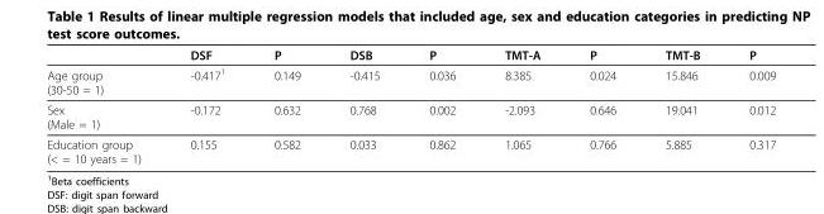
<table><thead><tr><td></td><td>DSF</td><td>P</td><td>DSB</td><td>P</td><td>TMT-A</td><td>P</td><td>TMT-B</td><td>P</td></tr></thead><tbody><tr><td>Age group (30-50 = 1)</td><td>-0.417<sup>1</sup></td><td>0.149</td><td>-0.415</td><td>0.036</td><td>8.385</td><td>0.024</td><td>15.846</td><td>0.009</td></tr><tr><td>Sex (Male = 1)</td><td>-0.172</td><td>0.632</td><td>0.768</td><td>0.002</td><td>-2.093</td><td>0.646</td><td>19.041</td><td>0.012</td></tr><tr><td>Education group (&lt; = 10 years = 1)</td><td>0.155</td><td>0.582</td><td>0.033</td><td>0.862</td><td>1.065</td><td>0.766</td><td>5.885</td><td>0.317</td></tr></tbody></table>